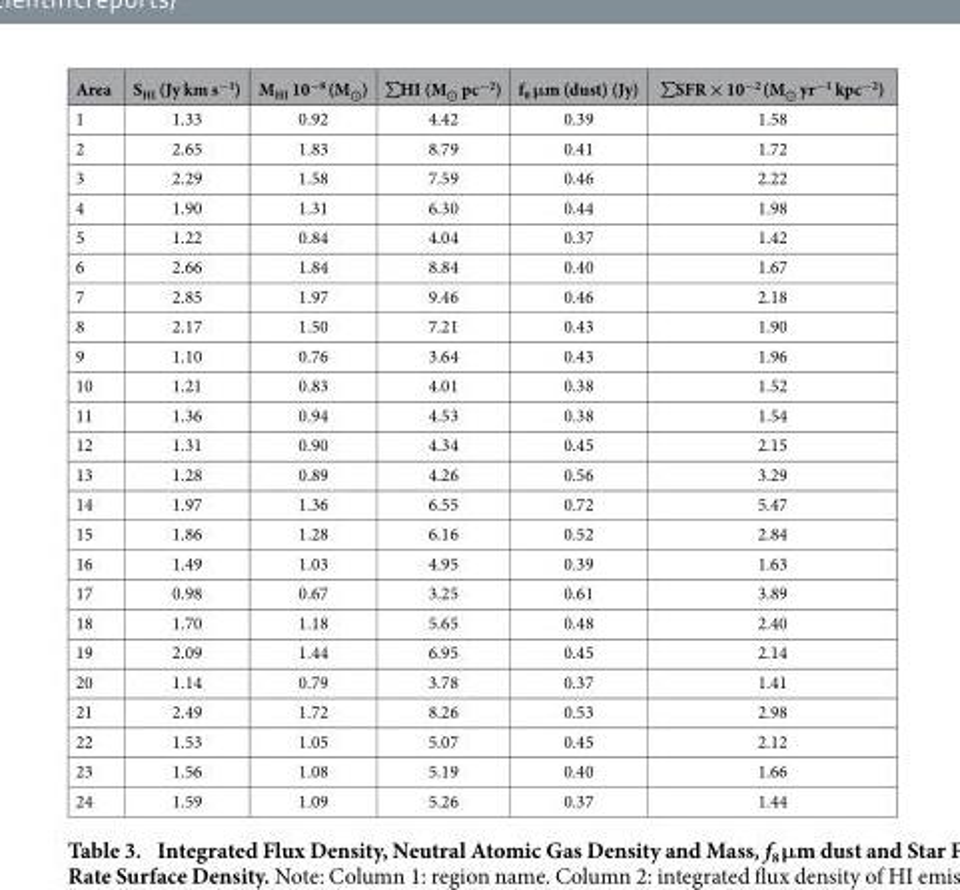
<table><thead><tr><td>Area</td><td>S<sub>HI</sub> (Jy km s<sup>−1</sup>)</td><td>M<sub>HI</sub> 10<sup>−8</sup> (M<sub>⊙</sub>)</td><td>∑HI (M<sub>⊙</sub> pc<sup>−2</sup>)</td><td>f<sub>8</sub> μm (dust) (Jy)</td><td>∑SFR × 10<sup>−2</sup> (M<sub>⊙</sub> yr<sup>−1</sup> kpc<sup>−2</sup>)</td></tr></thead><tbody><tr><td>1</td><td>1.33</td><td>0.92</td><td>4.42</td><td>0.39</td><td>1.58</td></tr><tr><td>2</td><td>2.65</td><td>1.83</td><td>8.79</td><td>0.41</td><td>1.72</td></tr><tr><td>3</td><td>2.29</td><td>1.58</td><td>7.59</td><td>0.46</td><td>2.22</td></tr><tr><td>4</td><td>1.90</td><td>1.31</td><td>6.30</td><td>0.44</td><td>1.98</td></tr><tr><td>5</td><td>1.22</td><td>0.84</td><td>4.04</td><td>0.37</td><td>1.42</td></tr><tr><td>6</td><td>2.66</td><td>1.84</td><td>8.84</td><td>0.40</td><td>1.67</td></tr><tr><td>7</td><td>2.85</td><td>1.97</td><td>9.46</td><td>0.46</td><td>2.18</td></tr><tr><td>8</td><td>2.17</td><td>1.50</td><td>7.21</td><td>0.43</td><td>1.90</td></tr><tr><td>9</td><td>1.10</td><td>0.76</td><td>3.64</td><td>0.43</td><td>1.96</td></tr><tr><td>10</td><td>1.21</td><td>0.83</td><td>4.01</td><td>0.38</td><td>1.52</td></tr><tr><td>11</td><td>1.36</td><td>0.94</td><td>4.53</td><td>0.38</td><td>1.54</td></tr><tr><td>12</td><td>1.31</td><td>0.90</td><td>4.34</td><td>0.45</td><td>2.15</td></tr><tr><td>13</td><td>1.28</td><td>0.89</td><td>4.26</td><td>0.56</td><td>3.29</td></tr><tr><td>14</td><td>1.97</td><td>1.36</td><td>6.55</td><td>0.72</td><td>5.47</td></tr><tr><td>15</td><td>1.86</td><td>1.28</td><td>6.16</td><td>0.52</td><td>2.84</td></tr><tr><td>16</td><td>1.49</td><td>1.03</td><td>4.95</td><td>0.39</td><td>1.63</td></tr><tr><td>17</td><td>0.98</td><td>0.67</td><td>3.25</td><td>0.61</td><td>3.89</td></tr><tr><td>18</td><td>1.70</td><td>1.18</td><td>5.65</td><td>0.48</td><td>2.40</td></tr><tr><td>19</td><td>2.09</td><td>1.44</td><td>6.95</td><td>0.45</td><td>2.14</td></tr><tr><td>20</td><td>1.14</td><td>0.79</td><td>3.78</td><td>0.37</td><td>1.41</td></tr><tr><td>21</td><td>2.49</td><td>1.72</td><td>8.26</td><td>0.53</td><td>2.98</td></tr><tr><td>22</td><td>1.53</td><td>1.05</td><td>5.07</td><td>0.45</td><td>2.12</td></tr><tr><td>23</td><td>1.56</td><td>1.08</td><td>5.19</td><td>0.40</td><td>1.66</td></tr><tr><td>24</td><td>1.59</td><td>1.09</td><td>5.26</td><td>0.37</td><td>1.44</td></tr></tbody></table>